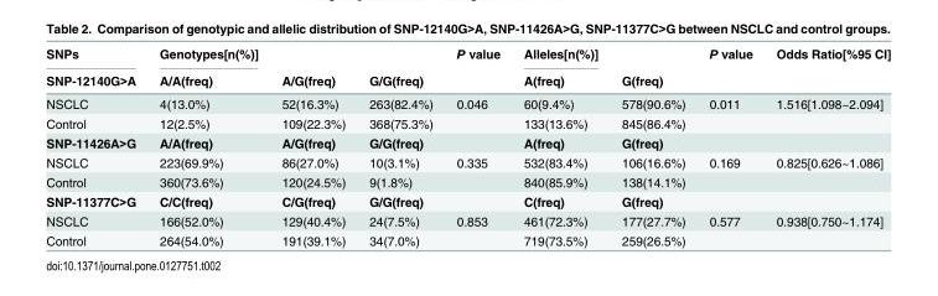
<table><thead><tr><td rowspan="2">SNPs SNP-12140G&gt;A</td><td rowspan="2">Genotypes[n(%)] A/A(freq)</td><td rowspan="2">A/G(freq)</td><td rowspan="2">G/G(freq)</td><td rowspan="2">P value</td><td rowspan="2">Alleles[n(%)] A(freq)</td><td rowspan="2">G(freq)</td><td rowspan="2">P value</td><td rowspan="2">Odds Ratio[%95 CI]</td></tr><tr></tr></thead><tbody><tr><td>NSCLC</td><td>4(13.0%)</td><td>52(16.3%)</td><td>263(82.4%)</td><td>0.046</td><td>60(9.4%)</td><td>578(90.6%)</td><td>0.011</td><td>1.516[1.098~2.094]</td></tr><tr><td>Control</td><td>12(2.5%)</td><td>109(22.3%)</td><td>368(75.3%)</td><td></td><td>133(13.6%)</td><td>845(86.4%)</td><td></td><td></td></tr><tr><td>SNP-11426A&gt;G</td><td>A/A(freq)</td><td>A/G(freq)</td><td>G/G(freq)</td><td></td><td>A(freq)</td><td>G(freq)</td><td></td><td></td></tr><tr><td>NSCLC</td><td>223(69.9%)</td><td>86(27.0%)</td><td>10(3.1%)</td><td>0.335</td><td>532(83.4%)</td><td>106(16.6%)</td><td>0.169</td><td>0.825[0.626~1.086]</td></tr><tr><td>Control</td><td>360(73.6%)</td><td>120(24.5%)</td><td>9(1.8%)</td><td></td><td>840(85.9%)</td><td>138(14.1%)</td><td></td><td></td></tr><tr><td>SNP-11377C&gt;G</td><td>C/C(freq)</td><td>C/G(freq)</td><td>G/G(freq)</td><td></td><td>C(freq)</td><td>G(freq)</td><td></td><td></td></tr><tr><td>NSCLC</td><td>166(52.0%)</td><td>129(40.4%)</td><td>24(7.5%)</td><td>0.853</td><td>461(72.3%)</td><td>177(27.7%)</td><td>0.577</td><td>0.938[0.750~1.174]</td></tr><tr><td>Control</td><td>264(54.0%)</td><td>191(39.1%)</td><td>34(7.0%)</td><td></td><td>719(73.5%)</td><td>259(26.5%)</td><td></td><td></td></tr></tbody></table>